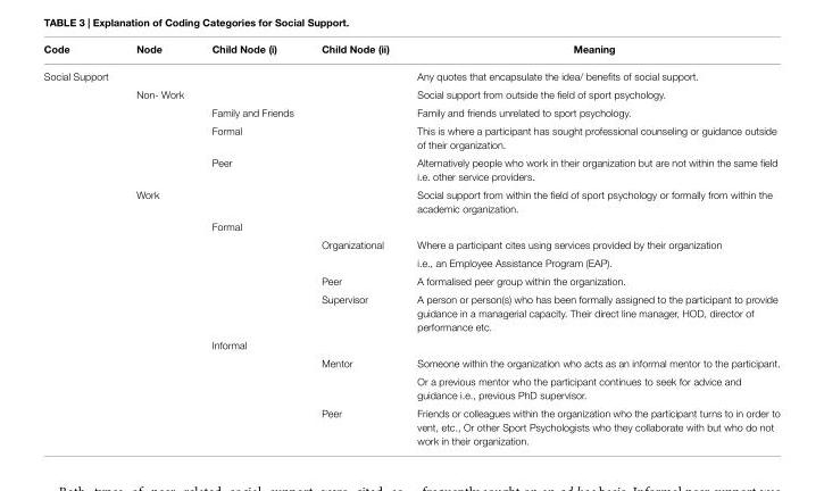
<table><thead><tr><td>Code</td><td>Node</td><td>Child Node (i)</td><td>Child Node (ii)</td><td>Meaning</td></tr></thead><tbody><tr><td rowspan="14">Social Support</td><td></td><td></td><td></td><td>Any quotes that encapsulate the idea/ benefits of social support.</td></tr><tr><td>Non- Work</td><td></td><td></td><td>Social support from outside the field of sport psychology.</td></tr><tr><td></td><td>Family and Friends</td><td></td><td>Family and friends unrelated to sport psychology.</td></tr><tr><td></td><td>Formal</td><td></td><td>This is where a participant has sought professional counseling or guidance outside of their organization.</td></tr><tr><td></td><td>Peer</td><td></td><td>Alternatively people who work in their organization but are not within the same field i.e. other service providers.</td></tr><tr><td>Work</td><td></td><td></td><td>Social support from within the field of sport psychology or formally from within the academic organization.</td></tr><tr><td></td><td>Formal</td><td></td><td></td></tr><tr><td></td><td></td><td>Organizational</td><td>Where a participant cites using services provided by their organization i.e., an Employee Assistance Program (EAP).</td></tr><tr><td></td><td></td><td>Peer</td><td>A formalised peer group within the organization.</td></tr><tr><td></td><td></td><td>Supervisor</td><td>A person or person(s) who has been formally assigned to the participant to provide guidance in a managerial capacity. Their direct line manager, HOD, director of performance etc.</td></tr><tr><td></td><td>Informal</td><td></td><td></td></tr><tr><td></td><td></td><td>Mentor</td><td>Someone within the organization who acts as an informal mentor to the participant.</td></tr><tr><td></td><td></td><td></td><td>Or a previous mentor who the participant continues to seek for advice and guidance i.e., previous PhD supervisor.</td></tr><tr><td></td><td></td><td>Peer</td><td>Friends or colleagues within the organization who the participant turns to in order to vent, etc., Or other Sport Psychologists who they collaborate with but who do not work in their organization.</td></tr></tbody></table>